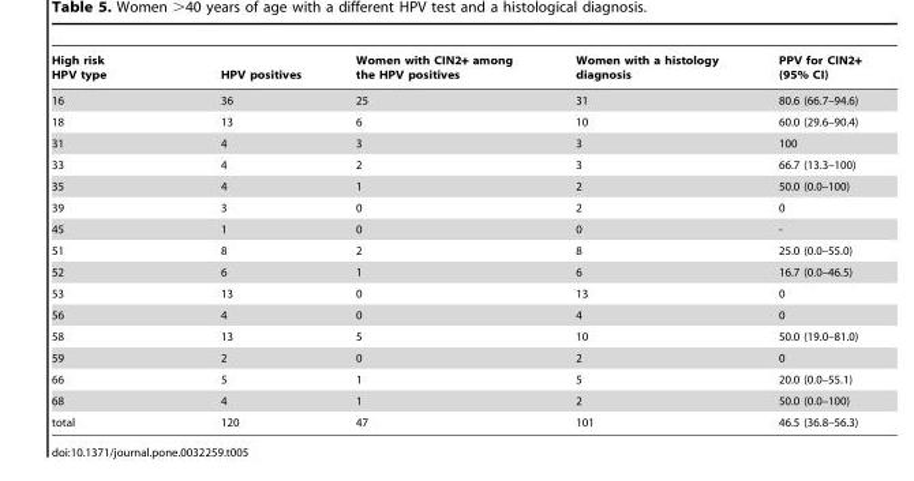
<table><thead><tr><td>High risk HPV type</td><td>HPV positives</td><td>Women with CIN2+ among the HPV positives</td><td>Women with a histology diagnosis</td><td>PPV for CIN2+ (95% CI)</td></tr></thead><tbody><tr><td>16</td><td>36</td><td>25</td><td>31</td><td>80.6 (66.7–94.6)</td></tr><tr><td>18</td><td>13</td><td>6</td><td>10</td><td>60.0 (29.6–90.4)</td></tr><tr><td>31</td><td>4</td><td>3</td><td>3</td><td>100</td></tr><tr><td>33</td><td>4</td><td>2</td><td>3</td><td>66.7 (13.3–100)</td></tr><tr><td>35</td><td>4</td><td>1</td><td>2</td><td>50.0 (0.0–100)</td></tr><tr><td>39</td><td>3</td><td>0</td><td>2</td><td>0</td></tr><tr><td>45</td><td>1</td><td>0</td><td>0</td><td>-</td></tr><tr><td>51</td><td>8</td><td>2</td><td>8</td><td>25.0 (0.0–55.0)</td></tr><tr><td>52</td><td>6</td><td>1</td><td>6</td><td>16.7 (0.0–46.5)</td></tr><tr><td>53</td><td>13</td><td>0</td><td>13</td><td>0</td></tr><tr><td>56</td><td>4</td><td>0</td><td>4</td><td>0</td></tr><tr><td>58</td><td>13</td><td>5</td><td>10</td><td>50.0 (19.0–81.0)</td></tr><tr><td>59</td><td>2</td><td>0</td><td>2</td><td>0</td></tr><tr><td>66</td><td>5</td><td>1</td><td>5</td><td>20.0 (0.0–55.1)</td></tr><tr><td>68</td><td>4</td><td>1</td><td>2</td><td>50.0 (0.0–100)</td></tr><tr><td>total</td><td>120</td><td>47</td><td>101</td><td>46.5 (36.8–56.3)</td></tr></tbody></table>